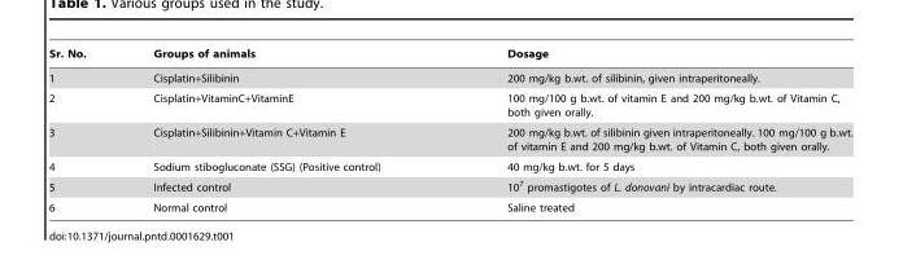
<table><thead><tr><td>Sr. No.</td><td>Groups of animals</td><td>Dosage</td></tr></thead><tbody><tr><td>1</td><td>Cisplatin+Silibinin</td><td>200 mg/kg b.wt. of silibinin, given intraperitoneally.</td></tr><tr><td>2</td><td>Cisplatin+VitaminC+VitaminE</td><td>100 mg/100 g b.wt. of vitamin E and 200 mg/kg b.wt. of Vitamin C, both given orally.</td></tr><tr><td>3</td><td>Cisplatin+Silibinin+Vitamin C+Vitamin E</td><td>200 mg/kg b.wt. of silibinin given intraperitoneally. 100 mg/100 g b.wt. of vitamin E and 200 mg/kg b.wt. of Vitamin C, both given orally.</td></tr><tr><td>4</td><td>Sodium stibogluconate (SSG) (Positive control)</td><td>40 mg/kg b.wt. for 5 days</td></tr><tr><td>5</td><td>Infected control</td><td>10<sup>7</sup> promastigotes of L. donovani by intracardiac route.</td></tr><tr><td>6</td><td>Normal control</td><td>Saline treated</td></tr></tbody></table>